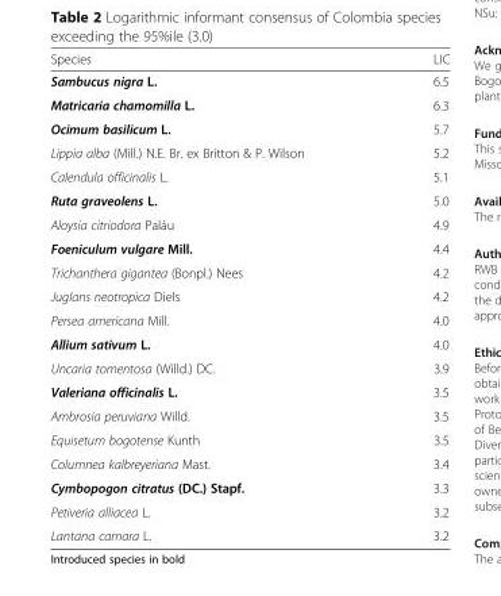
<table><thead><tr><td>Species</td><td>LIC</td></tr></thead><tbody><tr><td>Sambucus nigra L.</td><td>6.5</td></tr><tr><td>Matricaria chamomilla L.</td><td>6.3</td></tr><tr><td>Ocimum basilicum L.</td><td>5.7</td></tr><tr><td>Lippia alba (Mill.) N.E. Br. ex Britton &amp; P. Wilson</td><td>5.2</td></tr><tr><td>Calendula officinalis L.</td><td>5.1</td></tr><tr><td>Ruta graveolens L.</td><td>5.0</td></tr><tr><td>Aloysia citriodora Paláu</td><td>4.9</td></tr><tr><td>Foeniculum vulgare Mill.</td><td>4.4</td></tr><tr><td>Trichanthera gigantea (Bonpl.) Nees</td><td>4.2</td></tr><tr><td>Juglans neotropica Diels</td><td>4.2</td></tr><tr><td>Persea americana Mill.</td><td>4.0</td></tr><tr><td>Allium sativum L.</td><td>4.0</td></tr><tr><td>Uncaria tomentosa (Willd.) DC.</td><td>3.9</td></tr><tr><td>Valeriana officinalis L.</td><td>3.5</td></tr><tr><td>Ambrosia peruviana Willd.</td><td>3.5</td></tr><tr><td>Equisetum bogotense Kunth</td><td>3.5</td></tr><tr><td>Columnea kalbreyeriana Mast.</td><td>3.4</td></tr><tr><td>Cymbopogon citratus (DC.) Stapf.</td><td>3.3</td></tr><tr><td>Petiveria alliacea L.</td><td>3.2</td></tr><tr><td>Lantana camara L.</td><td>3.2</td></tr></tbody></table>